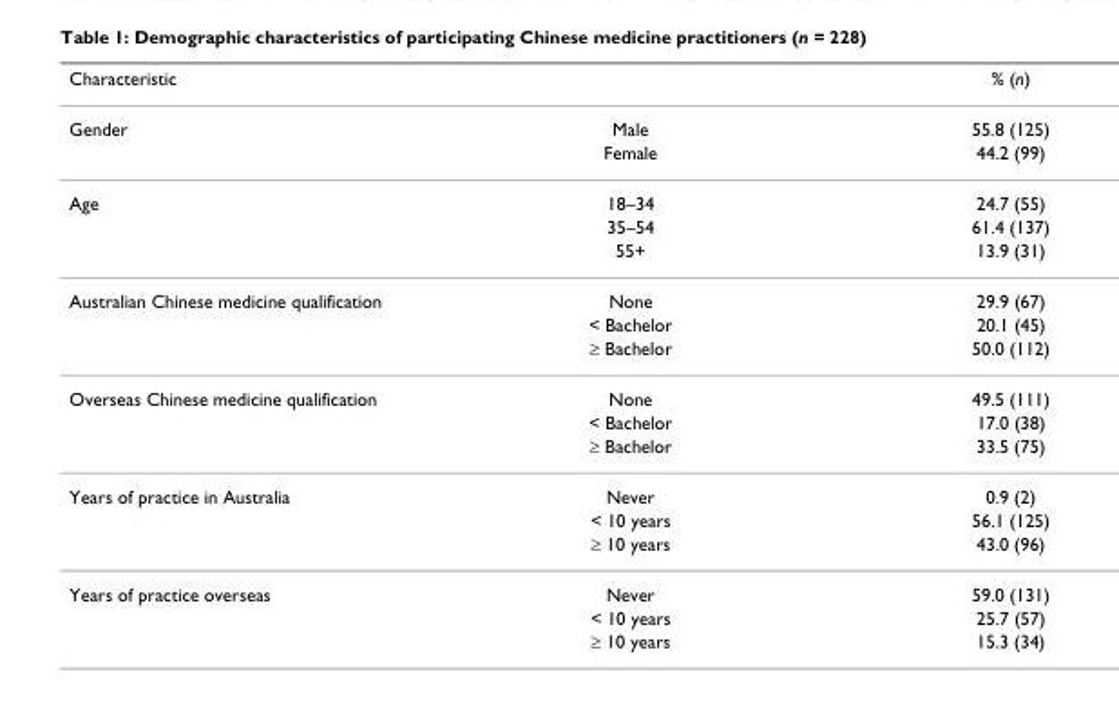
<table><thead><tr><td>Characteristic</td><td></td><td>% (n)</td></tr></thead><tbody><tr><td rowspan="2">Gender</td><td>Male</td><td>55.8 (125)</td></tr><tr><td>Female</td><td>44.2 (99)</td></tr><tr><td rowspan="3">Age</td><td>18–34</td><td>24.7 (55)</td></tr><tr><td>35–54</td><td>61.4 (137)</td></tr><tr><td>55+</td><td>13.9 (31)</td></tr><tr><td rowspan="3">Australian Chinese medicine qualification</td><td>None</td><td>29.9 (67)</td></tr><tr><td>&lt; Bachelor</td><td>20.1 (45)</td></tr><tr><td>≥ Bachelor</td><td>50.0 (112)</td></tr><tr><td rowspan="3">Overseas Chinese medicine qualification</td><td>None</td><td>49.5 (111)</td></tr><tr><td>&lt; Bachelor</td><td>17.0 (38)</td></tr><tr><td>≥ Bachelor</td><td>33.5 (75)</td></tr><tr><td rowspan="3">Years of practice in Australia</td><td>Never</td><td>0.9 (2)</td></tr><tr><td>&lt; 10 years</td><td>56.1 (125)</td></tr><tr><td>≥ 10 years</td><td>43.0 (96)</td></tr><tr><td rowspan="3">Years of practice overseas</td><td>Never</td><td>59.0 (131)</td></tr><tr><td>&lt; 10 years</td><td>25.7 (57)</td></tr><tr><td>≥ 10 years</td><td>15.3 (34)</td></tr></tbody></table>